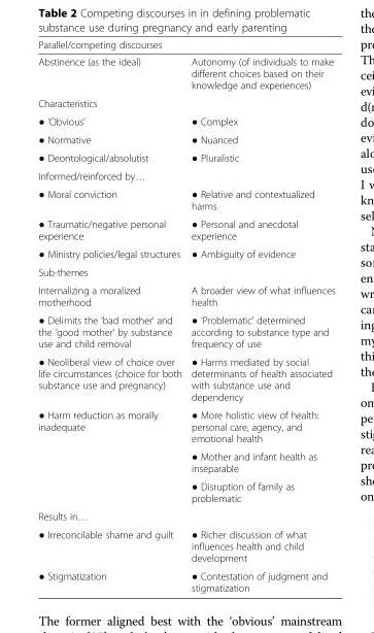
<table><thead><tr><td colspan="2">Parallel/competing discourses</td></tr><tr><td>Abstinence (as the ideal)</td><td>Autonomy (of individuals to make different choices based on their knowledge and experiences)</td></tr></thead><tbody><tr><td colspan="2">Characteristics</td></tr><tr><td>● ‘Obvious’</td><td>● Complex</td></tr><tr><td>● Normative</td><td>● Nuanced</td></tr><tr><td>● Deontological/absolutist</td><td>● Pluralistic</td></tr><tr><td colspan="2">Informed/reinforced by…</td></tr><tr><td>● Moral conviction</td><td>● Relative and contextualized harms</td></tr><tr><td>● Traumatic/negative personal experience</td><td>● Personal and anecdotal experience</td></tr><tr><td>● Ministry policies/legal structures</td><td>● Ambiguity of evidence</td></tr><tr><td colspan="2">Sub-themes</td></tr><tr><td>Internalizing a moralized motherhood</td><td>A broader view of what influences health</td></tr><tr><td>● Delimits the ‘bad mother’ and the ‘good mother’ by substance use and child removal</td><td>● ‘Problematic’ determined according to substance type and frequency of use</td></tr><tr><td>● Neoliberal view of choice over life circumstances (choice for both substance use and pregnancy)</td><td>● Harms mediated by social determinants of health associated with substance use and dependency</td></tr><tr><td rowspan="3">● Harm reduction as morally inadequate</td><td>● More holistic view of health: personal care, agency, and emotional health</td></tr><tr><td>● Mother and infant health as inseparable</td></tr><tr><td>● Disruption of family as problematic</td></tr><tr><td colspan="2">Results in…</td></tr><tr><td>● Irreconcilable shame and guilt</td><td>● Richer discussion of what influences health and child development</td></tr><tr><td>● Stigmatization</td><td>● Contestation of judgment and stigmatization</td></tr></tbody></table>